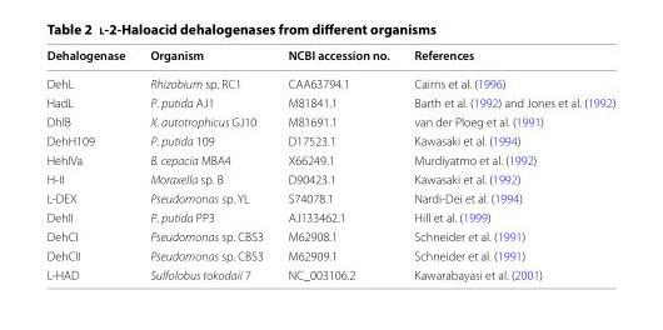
<table><thead><tr><td>Dehalogenase</td><td>Organism</td><td>NCBI accession no.</td><td>References</td></tr></thead><tbody><tr><td>DehL</td><td>Rhizobium sp. RC1</td><td>CAA63794.1</td><td>Cairns et al. (1996)</td></tr><tr><td>HadL</td><td>P. putida AJ1</td><td>M81841.1</td><td>Barth et al. (1992) and Jones et al. (1992)</td></tr><tr><td>DhlB</td><td>X. autotrophicus GJ10</td><td>M81691.1</td><td>van der Ploeg et al. (1991)</td></tr><tr><td>DehH109</td><td>P. putida 109</td><td>D17523.1</td><td>Kawasaki et al. (1994)</td></tr><tr><td>HehIVa</td><td>B. cepacia MBA4</td><td>X66249.1</td><td>Murdiyatmo et al. (1992)</td></tr><tr><td>H-II</td><td>Moraxella sp. B</td><td>D90423.1</td><td>Kawasaki et al. (1992)</td></tr><tr><td>L-DEX</td><td>Pseudomonas sp. YL</td><td>S74078.1</td><td>Nardi-Dei et al. (1994)</td></tr><tr><td>DehII</td><td>P. putida PP3</td><td>AJ133462.1</td><td>Hill et al. (1999)</td></tr><tr><td>DehCI</td><td>Pseudomonas sp. CBS3</td><td>M62908.1</td><td>Schneider et al. (1991)</td></tr><tr><td>DehCII</td><td>Pseudomonas sp. CBS3</td><td>M62909.1</td><td>Schneider et al. (1991)</td></tr><tr><td>L-HAD</td><td>Sulfolobus tokodaii 7</td><td>NC_003106.2</td><td>Kawarabayasi et al. (2001)</td></tr></tbody></table>